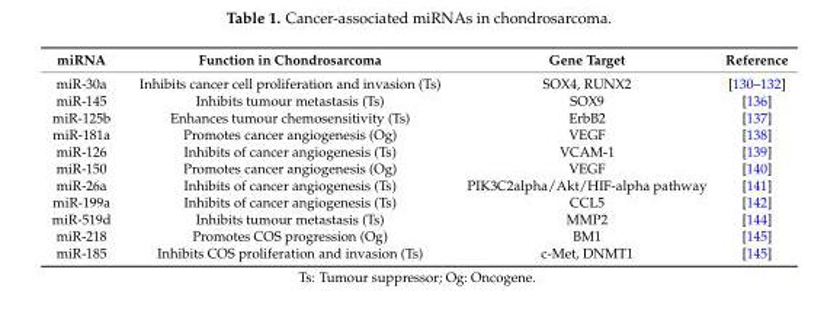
<table><thead><tr><td>miRNA</td><td>Function in Chondrosarcoma</td><td>Gene Target</td><td>Reference</td></tr></thead><tbody><tr><td>miR-30a</td><td>Inhibits cancer cell proliferation and invasion (Ts)</td><td>SOX4, RUNX2</td><td>[130–132]</td></tr><tr><td>miR-145</td><td>Inhibits tumour metastasis (Ts)</td><td>SOX9</td><td>[136]</td></tr><tr><td>miR-125b</td><td>Enhances tumour chemosensitivity (Ts)</td><td>ErbB2</td><td>[137]</td></tr><tr><td>miR-181a</td><td>Promotes cancer angiogenesis (Og)</td><td>VEGF</td><td>[138]</td></tr><tr><td>miR-126</td><td>Inhibits of cancer angiogenesis (Ts)</td><td>VCAM-1</td><td>[139]</td></tr><tr><td>miR-150</td><td>Promotes cancer angiogenesis (Og)</td><td>VEGF</td><td>[140]</td></tr><tr><td>miR-26a</td><td>Inhibits of cancer angiogenesis (Ts)</td><td>PIK3C2alpha/Akt/HIF-alpha pathway</td><td>[141]</td></tr><tr><td>miR-199a</td><td>Inhibits of cancer angiogenesis (Ts)</td><td>CCL5</td><td>[142]</td></tr><tr><td>miR-519d</td><td>Inhibits tumour metastasis (Ts)</td><td>MMP2</td><td>[144]</td></tr><tr><td>miR-218</td><td>Promotes COS progression (Og)</td><td>BM1</td><td>[145]</td></tr><tr><td>miR-185</td><td>Inhibits COS proliferation and invasion (Ts)</td><td>c-Met, DNMT1</td><td>[145]</td></tr></tbody></table>